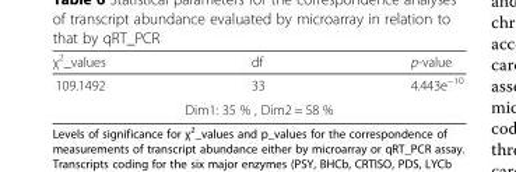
<table><thead><tr><td>χ<sup>2</sup>_values</td><td>df</td><td>p-value</td></tr></thead><tbody><tr><td>109.1492</td><td>33</td><td>4.443e<sup>−10</sup></td></tr><tr><td colspan="3">Dim1: 35 % , Dim2 = 58 %</td></tr></tbody></table>